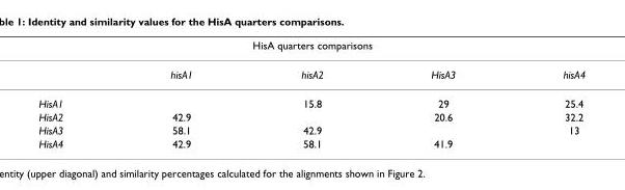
<table><thead><tr><td colspan="5">HisA quarters comparisons</td></tr><tr><td></td><td>hisA1</td><td>hisA2</td><td>HisA3</td><td>hisA4</td></tr></thead><tbody><tr><td>HisA1</td><td></td><td>15.8</td><td>29</td><td>25.4</td></tr><tr><td>HisA2</td><td>42.9</td><td></td><td>20.6</td><td>32.2</td></tr><tr><td>HisA3</td><td>58.1</td><td>42.9</td><td></td><td>13</td></tr><tr><td>HisA4</td><td>42.9</td><td>58.1</td><td>41.9</td><td></td></tr></tbody></table>